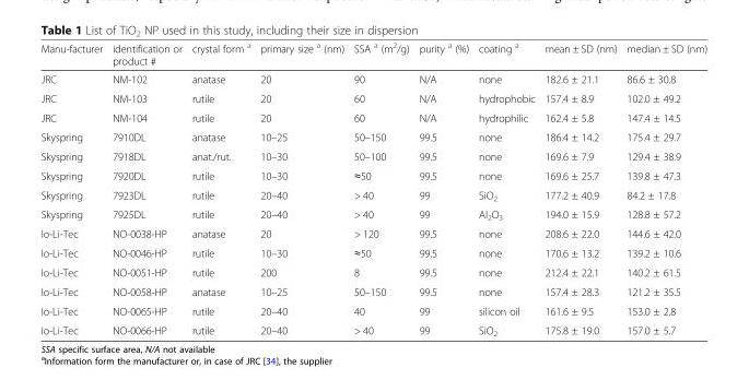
<table><thead><tr><td>Manu-facturer</td><td>identification or product #</td><td>crystal form <sup>a</sup></td><td>primary size <sup>a</sup> (nm)</td><td>SSA <sup>a</sup> (m<sup>2</sup>/g)</td><td>purity <sup>a</sup> (%)</td><td>coating <sup>a</sup></td><td>mean ± SD (nm)</td><td>median ± SD (nm)</td></tr></thead><tbody><tr><td>JRC</td><td>NM-102</td><td>anatase</td><td>20</td><td>90</td><td>N/A</td><td>none</td><td>182.6 ± 21.1</td><td>86.6 ± 30.8</td></tr><tr><td>JRC</td><td>NM-103</td><td>rutile</td><td>20</td><td>60</td><td>N/A</td><td>hydrophobic</td><td>157.4 ± 8.9</td><td>102.0 ± 49.2</td></tr><tr><td>JRC</td><td>NM-104</td><td>rutile</td><td>20</td><td>60</td><td>N/A</td><td>hydrophilic</td><td>162.4 ± 5.8</td><td>147.4 ± 14.5</td></tr><tr><td>Skyspring</td><td>7910DL</td><td>anatase</td><td>10–25</td><td>50–150</td><td>99.5</td><td>none</td><td>186.4 ± 14.2</td><td>175.4 ± 29.7</td></tr><tr><td>Skyspring</td><td>7918DL</td><td>anat./rut.</td><td>10–30</td><td>50–100</td><td>99.5</td><td>none</td><td>169.6 ± 7.9</td><td>129.4 ± 38.9</td></tr><tr><td>Skyspring</td><td>7920DL</td><td>rutile</td><td>10–30</td><td>≈50</td><td>99.5</td><td>none</td><td>169.6 ± 25.7</td><td>139.8 ± 47.3</td></tr><tr><td>Skyspring</td><td>7923DL</td><td>rutile</td><td>20–40</td><td>&gt; 40</td><td>99</td><td>SiO<sub>2</sub></td><td>177.2 ± 40.9</td><td>84.2 ± 17.8</td></tr><tr><td>Skyspring</td><td>7925DL</td><td>rutile</td><td>20–40</td><td>&gt; 40</td><td>99</td><td>Al<sub>2</sub>O<sub>3</sub></td><td>194.0 ± 15.9</td><td>128.8 ± 57.2</td></tr><tr><td>Io-Li-Tec</td><td>NO-0038-HP</td><td>anatase</td><td>20</td><td>&gt; 120</td><td>99.5</td><td>none</td><td>208.6 ± 22.0</td><td>144.6 ± 42.0</td></tr><tr><td>Io-Li-Tec</td><td>NO-0046-HP</td><td>rutile</td><td>10–30</td><td>≈50</td><td>99.5</td><td>none</td><td>170.6 ± 13.2</td><td>139.2 ± 10.6</td></tr><tr><td>Io-Li-Tec</td><td>NO-0051-HP</td><td>rutile</td><td>200</td><td>8</td><td>99.5</td><td>none</td><td>212.4 ± 22.1</td><td>140.2 ± 61.5</td></tr><tr><td>Io-Li-Tec</td><td>NO-0058-HP</td><td>anatase</td><td>10–25</td><td>50–150</td><td>99.5</td><td>none</td><td>157.4 ± 28.3</td><td>121.2 ± 35.5</td></tr><tr><td>Io-Li-Tec</td><td>NO-0065-HP</td><td>rutile</td><td>20–40</td><td>40</td><td>99</td><td>silicon oil</td><td>161.6 ± 9.5</td><td>153.0 ± 2.8</td></tr><tr><td>Io-Li-Tec</td><td>NO-0066-HP</td><td>rutile</td><td>20–40</td><td>&gt; 40</td><td>99</td><td>SiO<sub>2</sub></td><td>175.8 ± 19.0</td><td>157.0 ± 5.7</td></tr></tbody></table>